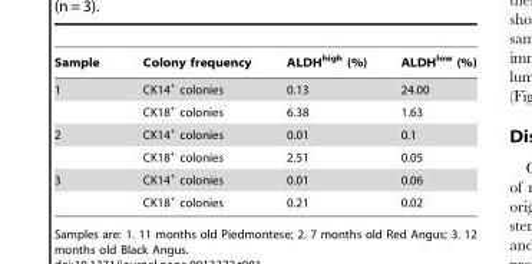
<table><thead><tr><td>Sample</td><td>Colony frequency</td><td>ALDH<sup>high</sup> (%)</td><td>ALDH<sup>low</sup> (%)</td></tr></thead><tbody><tr><td rowspan="2">1</td><td>CK14<sup>+</sup> colonies</td><td>0.13</td><td>24.00</td></tr><tr><td>CK18<sup>+</sup> colonies</td><td>6.38</td><td>1.63</td></tr><tr><td rowspan="2">2</td><td>CK14<sup>+</sup> colonies</td><td>0.01</td><td>0.1</td></tr><tr><td>CK18<sup>+</sup> colonies</td><td>2.51</td><td>0.05</td></tr><tr><td rowspan="2">3</td><td>CK14<sup>+</sup> colonies</td><td>0.01</td><td>0.06</td></tr><tr><td>CK18<sup>+</sup> colonies</td><td>0.21</td><td>0.02</td></tr></tbody></table>